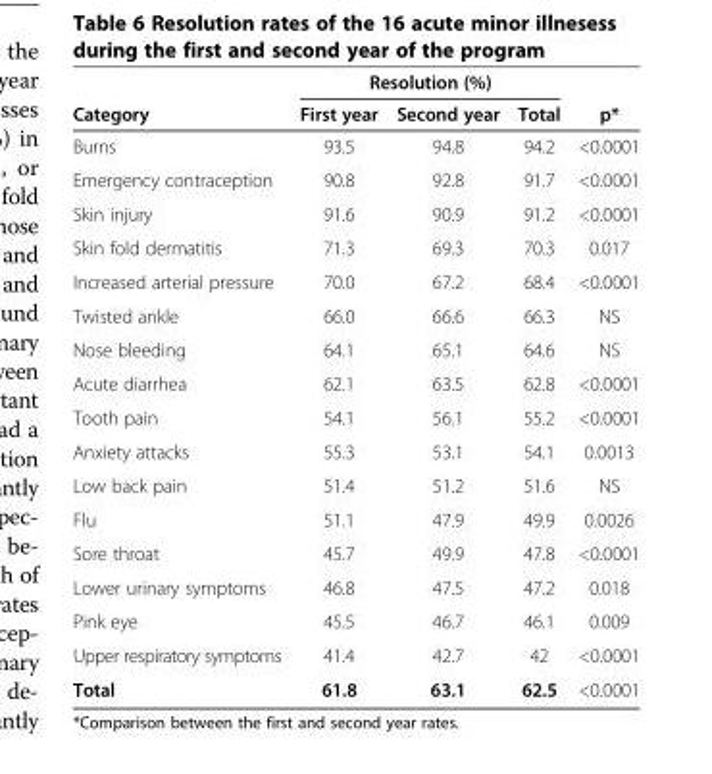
<table><thead><tr><td rowspan="2">Category</td><td colspan="3">Resolution (%)</td><td rowspan="2">p*</td></tr><tr><td>First year</td><td>Second year</td><td>Total</td></tr></thead><tbody><tr><td>Burns</td><td>93.5</td><td>94.8</td><td>94.2</td><td>&lt;0.0001</td></tr><tr><td>Emergency contraception</td><td>90.8</td><td>92.8</td><td>91.7</td><td>&lt;0.0001</td></tr><tr><td>Skin injury</td><td>91.6</td><td>90.9</td><td>91.2</td><td>&lt;0.0001</td></tr><tr><td>Skin fold dermatitis</td><td>71.3</td><td>69.3</td><td>70.3</td><td>0.017</td></tr><tr><td>Increased arterial pressure</td><td>70.0</td><td>67.2</td><td>68.4</td><td>&lt;0.0001</td></tr><tr><td>Twisted ankle</td><td>66.0</td><td>66.6</td><td>66.3</td><td>NS</td></tr><tr><td>Nose bleeding</td><td>64.1</td><td>65.1</td><td>64.6</td><td>NS</td></tr><tr><td>Acute diarrhea</td><td>62.1</td><td>63.5</td><td>62.8</td><td>&lt;0.0001</td></tr><tr><td>Tooth pain</td><td>54.1</td><td>56.1</td><td>55.2</td><td>&lt;0.0001</td></tr><tr><td>Anxiety attacks</td><td>55.3</td><td>53.1</td><td>54.1</td><td>0.0013</td></tr><tr><td>Low back pain</td><td>51.4</td><td>51.2</td><td>51.6</td><td>NS</td></tr><tr><td>Flu</td><td>51.1</td><td>47.9</td><td>49.9</td><td>0.0026</td></tr><tr><td>Sore throat</td><td>45.7</td><td>49.9</td><td>47.8</td><td>&lt;0.0001</td></tr><tr><td>Lower urinary symptoms</td><td>46.8</td><td>47.5</td><td>47.2</td><td>0.018</td></tr><tr><td>Pink eye</td><td>45.5</td><td>46.7</td><td>46.1</td><td>0.009</td></tr><tr><td>Upper respiratory symptoms</td><td>41.4</td><td>42.7</td><td>42</td><td>&lt;0.0001</td></tr><tr><td>Total</td><td>61.8</td><td>63.1</td><td>62.5</td><td>&lt;0.0001</td></tr></tbody></table>